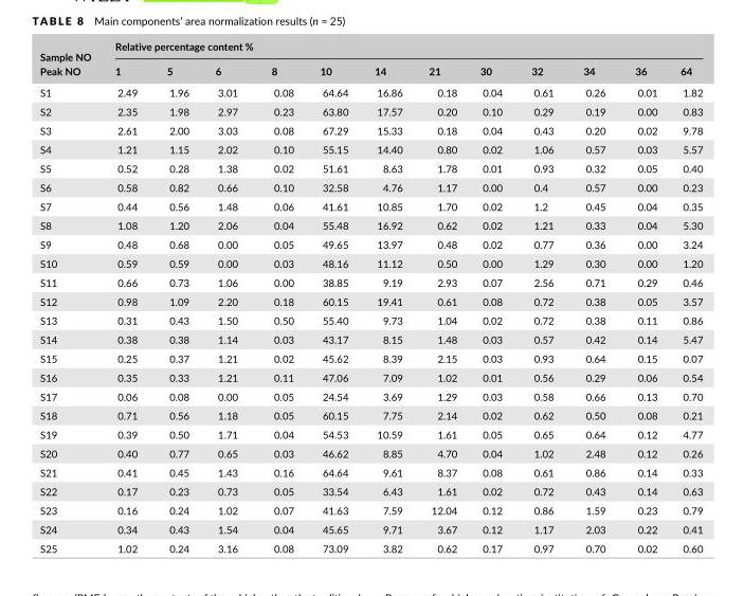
<table><thead><tr><td rowspan="2">Sample NO Peak NO</td><td colspan="12">Relative percentage content %</td></tr><tr><td>1</td><td>5</td><td>6</td><td>8</td><td>10</td><td>14</td><td>21</td><td>30</td><td>32</td><td>34</td><td>36</td><td>64</td></tr></thead><tbody><tr><td>S1</td><td>2.49</td><td>1.96</td><td>3.01</td><td>0.08</td><td>64.64</td><td>16.86</td><td>0.18</td><td>0.04</td><td>0.61</td><td>0.26</td><td>0.01</td><td>1.82</td></tr><tr><td>S2</td><td>2.35</td><td>1.98</td><td>2.97</td><td>0.23</td><td>63.80</td><td>17.57</td><td>0.20</td><td>0.10</td><td>0.29</td><td>0.19</td><td>0.00</td><td>0.83</td></tr><tr><td>S3</td><td>2.61</td><td>2.00</td><td>3.03</td><td>0.08</td><td>67.29</td><td>15.33</td><td>0.18</td><td>0.04</td><td>0.43</td><td>0.20</td><td>0.02</td><td>9.78</td></tr><tr><td>S4</td><td>1.21</td><td>1.15</td><td>2.02</td><td>0.10</td><td>55.15</td><td>14.40</td><td>0.80</td><td>0.02</td><td>1.06</td><td>0.57</td><td>0.03</td><td>5.57</td></tr><tr><td>S5</td><td>0.52</td><td>0.28</td><td>1.38</td><td>0.02</td><td>51.61</td><td>8.63</td><td>1.78</td><td>0.01</td><td>0.93</td><td>0.32</td><td>0.05</td><td>0.40</td></tr><tr><td>S6</td><td>0.58</td><td>0.82</td><td>0.66</td><td>0.10</td><td>32.58</td><td>4.76</td><td>1.17</td><td>0.00</td><td>0.4</td><td>0.57</td><td>0.00</td><td>0.23</td></tr><tr><td>S7</td><td>0.44</td><td>0.56</td><td>1.48</td><td>0.06</td><td>41.61</td><td>10.85</td><td>1.70</td><td>0.02</td><td>1.2</td><td>0.45</td><td>0.04</td><td>0.35</td></tr><tr><td>S8</td><td>1.08</td><td>1.20</td><td>2.06</td><td>0.04</td><td>55.48</td><td>16.92</td><td>0.62</td><td>0.02</td><td>1.21</td><td>0.33</td><td>0.04</td><td>5.30</td></tr><tr><td>S9</td><td>0.48</td><td>0.68</td><td>0.00</td><td>0.05</td><td>49.65</td><td>13.97</td><td>0.48</td><td>0.02</td><td>0.77</td><td>0.36</td><td>0.00</td><td>3.24</td></tr><tr><td>S10</td><td>0.59</td><td>0.59</td><td>0.00</td><td>0.03</td><td>48.16</td><td>11.12</td><td>0.50</td><td>0.00</td><td>1.29</td><td>0.30</td><td>0.00</td><td>1.20</td></tr><tr><td>S11</td><td>0.66</td><td>0.73</td><td>1.06</td><td>0.00</td><td>38.85</td><td>9.19</td><td>2.93</td><td>0.07</td><td>2.56</td><td>0.71</td><td>0.29</td><td>0.46</td></tr><tr><td>S12</td><td>0.98</td><td>1.09</td><td>2.20</td><td>0.18</td><td>60.15</td><td>19.41</td><td>0.61</td><td>0.08</td><td>0.72</td><td>0.38</td><td>0.05</td><td>3.57</td></tr><tr><td>S13</td><td>0.31</td><td>0.43</td><td>1.50</td><td>0.50</td><td>55.40</td><td>9.73</td><td>1.04</td><td>0.02</td><td>0.72</td><td>0.38</td><td>0.11</td><td>0.86</td></tr><tr><td>S14</td><td>0.38</td><td>0.38</td><td>1.14</td><td>0.03</td><td>43.17</td><td>8.15</td><td>1.48</td><td>0.03</td><td>0.57</td><td>0.42</td><td>0.14</td><td>5.47</td></tr><tr><td>S15</td><td>0.25</td><td>0.37</td><td>1.21</td><td>0.02</td><td>45.62</td><td>8.39</td><td>2.15</td><td>0.03</td><td>0.93</td><td>0.64</td><td>0.15</td><td>0.07</td></tr><tr><td>S16</td><td>0.35</td><td>0.33</td><td>1.21</td><td>0.11</td><td>47.06</td><td>7.09</td><td>1.02</td><td>0.01</td><td>0.56</td><td>0.29</td><td>0.06</td><td>0.54</td></tr><tr><td>S17</td><td>0.06</td><td>0.08</td><td>0.00</td><td>0.05</td><td>24.54</td><td>3.69</td><td>1.29</td><td>0.03</td><td>0.58</td><td>0.66</td><td>0.13</td><td>0.70</td></tr><tr><td>S18</td><td>0.71</td><td>0.56</td><td>1.18</td><td>0.05</td><td>60.15</td><td>7.75</td><td>2.14</td><td>0.02</td><td>0.62</td><td>0.50</td><td>0.08</td><td>0.21</td></tr><tr><td>S19</td><td>0.39</td><td>0.50</td><td>1.71</td><td>0.04</td><td>54.53</td><td>10.59</td><td>1.61</td><td>0.05</td><td>0.65</td><td>0.64</td><td>0.12</td><td>4.77</td></tr><tr><td>S20</td><td>0.40</td><td>0.77</td><td>0.65</td><td>0.03</td><td>46.62</td><td>8.85</td><td>4.70</td><td>0.04</td><td>1.02</td><td>2.48</td><td>0.12</td><td>0.26</td></tr><tr><td>S21</td><td>0.41</td><td>0.45</td><td>1.43</td><td>0.16</td><td>64.64</td><td>9.61</td><td>8.37</td><td>0.08</td><td>0.61</td><td>0.86</td><td>0.14</td><td>0.33</td></tr><tr><td>S22</td><td>0.17</td><td>0.23</td><td>0.73</td><td>0.05</td><td>33.54</td><td>6.43</td><td>1.61</td><td>0.02</td><td>0.72</td><td>0.43</td><td>0.14</td><td>0.63</td></tr><tr><td>S23</td><td>0.16</td><td>0.24</td><td>1.02</td><td>0.07</td><td>41.63</td><td>7.59</td><td>12.04</td><td>0.12</td><td>0.86</td><td>1.59</td><td>0.23</td><td>0.79</td></tr><tr><td>S24</td><td>0.34</td><td>0.43</td><td>1.54</td><td>0.04</td><td>45.65</td><td>9.71</td><td>3.67</td><td>0.12</td><td>1.17</td><td>2.03</td><td>0.22</td><td>0.41</td></tr><tr><td>S25</td><td>1.02</td><td>0.24</td><td>3.16</td><td>0.08</td><td>73.09</td><td>3.82</td><td>0.62</td><td>0.17</td><td>0.97</td><td>0.70</td><td>0.02</td><td>0.60</td></tr></tbody></table>